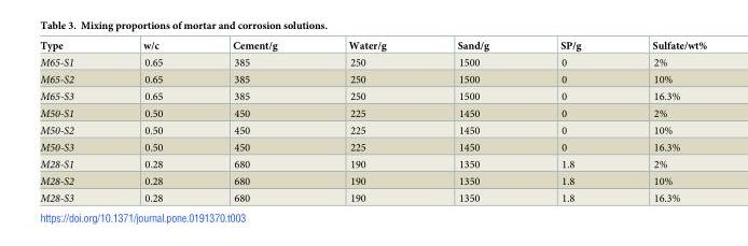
<table><thead><tr><td>Type</td><td>w/c</td><td>Cement/g</td><td>Water/g</td><td>Sand/g</td><td>SP/g</td><td>Sulfate/wt%</td></tr></thead><tbody><tr><td>M65-S1</td><td>0.65</td><td>385</td><td>250</td><td>1500</td><td>0</td><td>2%</td></tr><tr><td>M65-S2</td><td>0.65</td><td>385</td><td>250</td><td>1500</td><td>0</td><td>10%</td></tr><tr><td>M65-S3</td><td>0.65</td><td>385</td><td>250</td><td>1500</td><td>0</td><td>16.3%</td></tr><tr><td>M50-S1</td><td>0.50</td><td>450</td><td>225</td><td>1450</td><td>0</td><td>2%</td></tr><tr><td>M50-S2</td><td>0.50</td><td>450</td><td>225</td><td>1450</td><td>0</td><td>10%</td></tr><tr><td>M50-S3</td><td>0.50</td><td>450</td><td>225</td><td>1450</td><td>0</td><td>16.3%</td></tr><tr><td>M28-S1</td><td>0.28</td><td>680</td><td>190</td><td>1350</td><td>1.8</td><td>2%</td></tr><tr><td>M28-S2</td><td>0.28</td><td>680</td><td>190</td><td>1350</td><td>1.8</td><td>10%</td></tr><tr><td>M28-S3</td><td>0.28</td><td>680</td><td>190</td><td>1350</td><td>1.8</td><td>16.3%</td></tr></tbody></table>